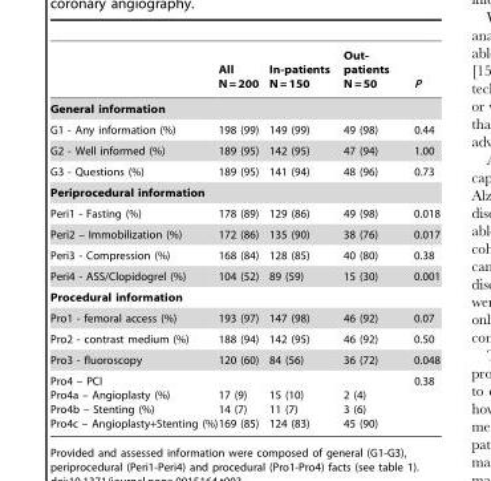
<table><thead><tr><td></td><td>All N = 200</td><td>In-patients N = 150</td><td>Out- patients N = 50</td><td>P</td></tr></thead><tbody><tr><td colspan="5">General information</td></tr><tr><td>G1 - Any information (%)</td><td>198 (99)</td><td>149 (99)</td><td>49 (98)</td><td>0.44</td></tr><tr><td>G2 - Well informed (%)</td><td>189 (95)</td><td>142 (95)</td><td>47 (94)</td><td>1.00</td></tr><tr><td>G3 - Questions (%)</td><td>189 (95)</td><td>141 (94)</td><td>48 (96)</td><td>0.73</td></tr><tr><td colspan="5">Periprocedural information</td></tr><tr><td>Peri1 - Fasting (%)</td><td>178 (89)</td><td>129 (86)</td><td>49 (98)</td><td>0.018</td></tr><tr><td>Peri2 – Immobilization (%)</td><td>172 (86)</td><td>135 (90)</td><td>38 (76)</td><td>0.017</td></tr><tr><td>Peri3 - Compression (%)</td><td>168 (84)</td><td>128 (85)</td><td>40 (80)</td><td>0.38</td></tr><tr><td>Peri4 - ASS/Clopidogrel (%)</td><td>104 (52)</td><td>89 (59)</td><td>15 (30)</td><td>0.001</td></tr><tr><td colspan="5">Procedural information</td></tr><tr><td>Pro1 - femoral access (%)</td><td>193 (97)</td><td>147 (98)</td><td>46 (92)</td><td>0.07</td></tr><tr><td>Pro2 - contrast medium (%)</td><td>188 (94)</td><td>142 (95)</td><td>46 (92)</td><td>0.50</td></tr><tr><td>Pro3 - fluoroscopy</td><td>120 (60)</td><td>84 (56)</td><td>36 (72)</td><td>0.048</td></tr><tr><td>Pro4 – PCI Pro4a – Angioplasty (%) Pro4b – Stenting (%) Pro4c – Angioplasty+Stenting (%)</td><td>17 (9) 14 (7) 169 (85)</td><td>15 (10) 11 (7) 124 (83)</td><td>2 (4) 3 (6) 45 (90)</td><td>0.38</td></tr></tbody></table>